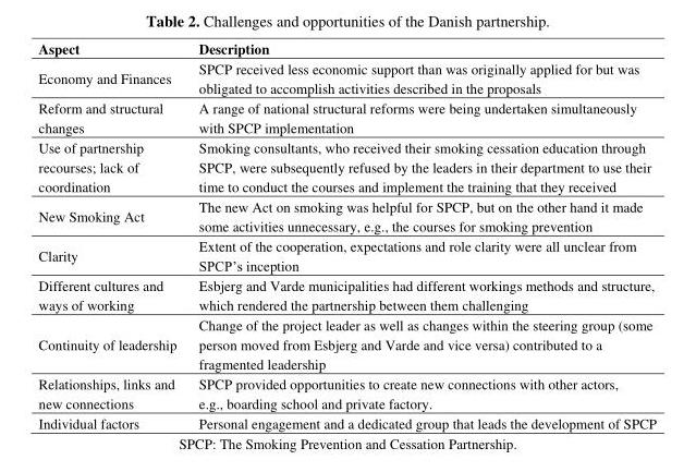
<table><thead><tr><td>Aspect</td><td>Description</td></tr></thead><tbody><tr><td>Economy and Finances</td><td>SPCP received less economic support than was originally applied for but was obligated to accomplish activities described in the proposals</td></tr><tr><td>Reform and structural changes</td><td>A range of national structural reforms were being undertaken simultaneously with SPCP implementation</td></tr><tr><td>Use of partnership recourses; lack of coordination</td><td>Smoking consultants, who received their smoking cessation education through SPCP, were subsequently refused by the leaders in their department to use their time to conduct the courses and implement the training that they received</td></tr><tr><td>New Smoking Act</td><td>The new Act on smoking was helpful for SPCP, but on the other hand it made some activities unnecessary, e.g., the courses for smoking prevention</td></tr><tr><td>Clarity</td><td>Extent of the cooperation, expectations and role clarity were all unclear from SPCP‘s inception</td></tr><tr><td>Different cultures and ways of working</td><td>Esbjerg and Varde municipalities had different workings methods and structure, which rendered the partnership between them challenging</td></tr><tr><td>Continuity of leadership</td><td>Change of the project leader as well as changes within the steering group (some person moved from Esbjerg and Varde and vice versa) contributed to a fragmented leadership</td></tr><tr><td>Relationships, links and new connections</td><td>SPCP provided opportunities to create new connections with other actors, e.g., boarding school and private factory.</td></tr><tr><td>Individual factors</td><td>Personal engagement and a dedicated group that leads the development of SPCP</td></tr></tbody></table>